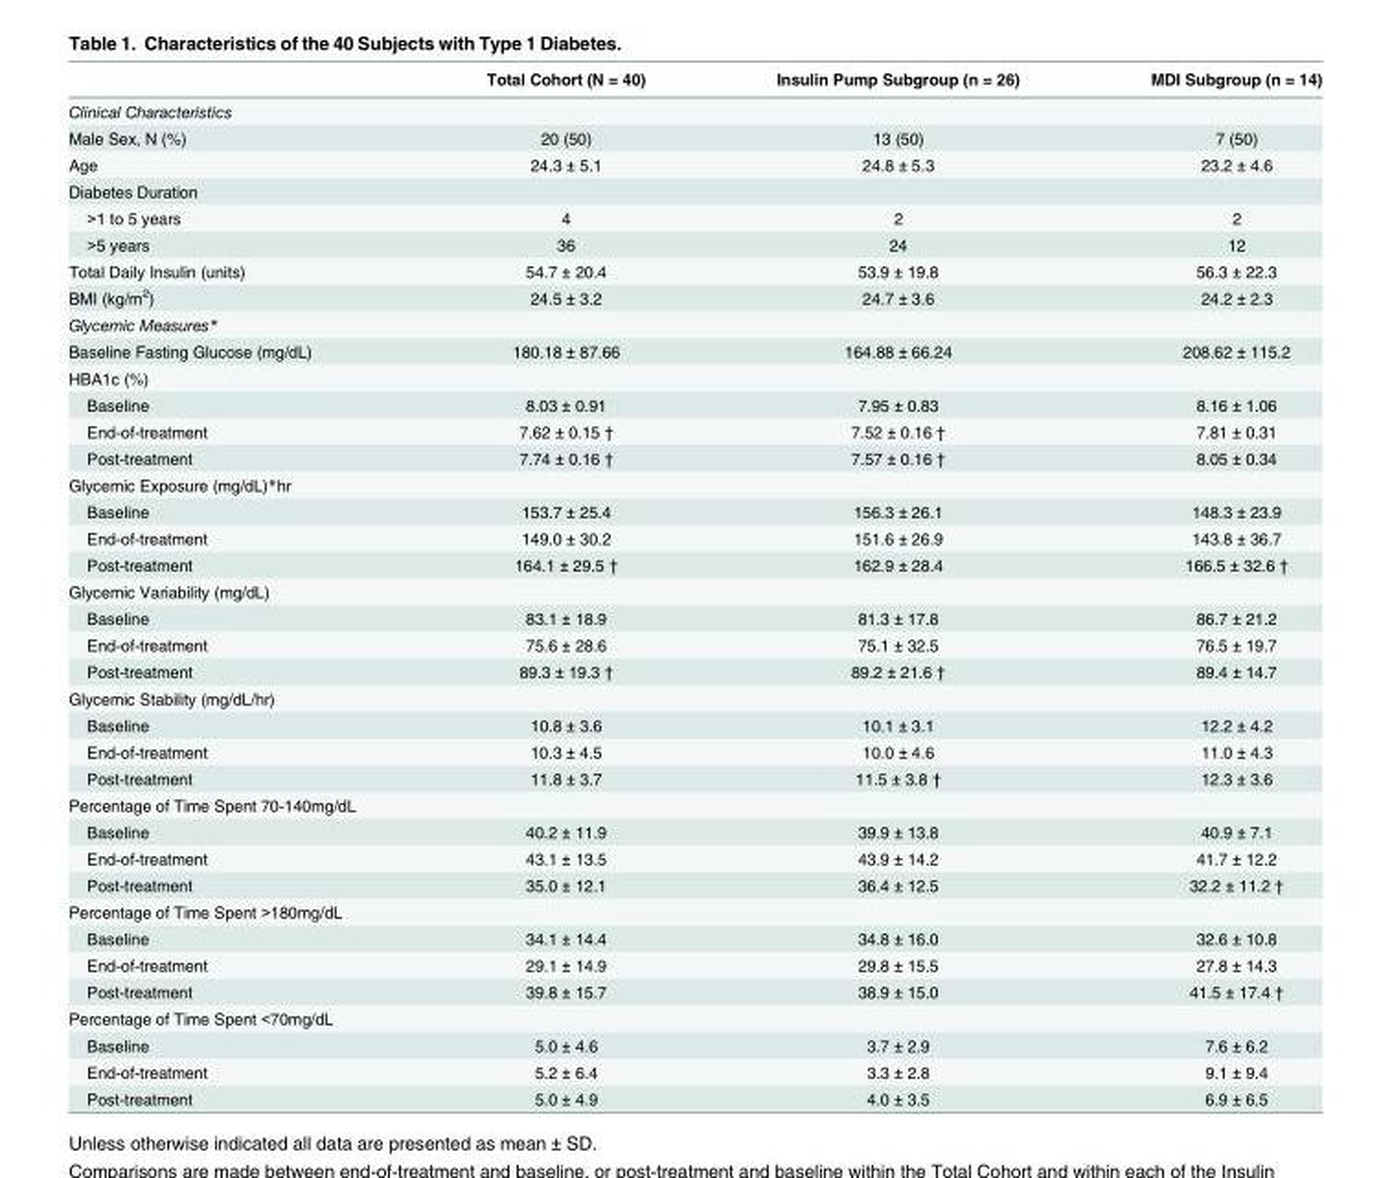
<table><thead><tr><td></td><td>Total Cohort (N = 40)</td><td>Insulin Pump Subgroup (n = 26)</td><td>MDI Subgroup (n = 14)</td></tr></thead><tbody><tr><td colspan="4">Clinical Characteristics</td></tr><tr><td>Male Sex, N (%)</td><td>20 (50)</td><td>13 (50)</td><td>7 (50)</td></tr><tr><td>Age</td><td>24.3 ± 5.1</td><td>24.8 ± 5.3</td><td>23.2 ± 4.6</td></tr><tr><td colspan="4">Diabetes Duration</td></tr><tr><td>&gt;1 to 5 years</td><td>4</td><td>2</td><td>2</td></tr><tr><td>&gt;5 years</td><td>36</td><td>24</td><td>12</td></tr><tr><td>Total Daily Insulin (units)</td><td>54.7 ± 20.4</td><td>53.9 ± 19.8</td><td>56.3 ± 22.3</td></tr><tr><td>BMI (kg/m<sup>2</sup>)</td><td>24.5 ± 3.2</td><td>24.7 ± 3.6</td><td>24.2 ± 2.3</td></tr><tr><td colspan="4">Glycemic Measures*</td></tr><tr><td>Baseline Fasting Glucose (mg/dL)</td><td>180.18 ± 87.66</td><td>164.88 ± 66.24</td><td>208.62 ± 115.2</td></tr><tr><td colspan="4">HBA1c (%)</td></tr><tr><td>Baseline</td><td>8.03 ± 0.91</td><td>7.95 ± 0.83</td><td>8.16 ± 1.06</td></tr><tr><td>End-of-treatment</td><td>7.62 ± 0.15 †</td><td>7.52 ± 0.16 †</td><td>7.81 ± 0.31</td></tr><tr><td>Post-treatment</td><td>7.74 ± 0.16 †</td><td>7.57 ± 0.16 †</td><td>8.05 ± 0.34</td></tr><tr><td colspan="4">Glycemic Exposure (mg/dL)*hr</td></tr><tr><td>Baseline</td><td>153.7 ± 25.4</td><td>156.3 ± 26.1</td><td>148.3 ± 23.9</td></tr><tr><td>End-of-treatment</td><td>149.0 ± 30.2</td><td>151.6 ± 26.9</td><td>143.8 ± 36.7</td></tr><tr><td>Post-treatment</td><td>164.1 ± 29.5 †</td><td>162.9 ± 28.4</td><td>166.5 ± 32.6 †</td></tr><tr><td colspan="4">Glycemic Variability (mg/dL)</td></tr><tr><td>Baseline</td><td>83.1 ± 18.9</td><td>81.3 ± 17.8</td><td>86.7 ± 21.2</td></tr><tr><td>End-of-treatment</td><td>75.6 ± 28.6</td><td>75.1 ± 32.5</td><td>76.5 ± 19.7</td></tr><tr><td>Post-treatment</td><td>89.3 ± 19.3 †</td><td>89.2 ± 21.6 †</td><td>89.4 ± 14.7</td></tr><tr><td colspan="4">Glycemic Stability (mg/dL/hr)</td></tr><tr><td>Baseline</td><td>10.8 ± 3.6</td><td>10.1 ± 3.1</td><td>12.2 ± 4.2</td></tr><tr><td>End-of-treatment</td><td>10.3 ± 4.5</td><td>10.0 ± 4.6</td><td>11.0 ± 4.3</td></tr><tr><td>Post-treatment</td><td>11.8 ± 3.7</td><td>11.5 ± 3.8 †</td><td>12.3 ± 3.6</td></tr><tr><td colspan="4">Percentage of Time Spent 70-140mg/dL</td></tr><tr><td>Baseline</td><td>40.2 ± 11.9</td><td>39.9 ± 13.8</td><td>40.9 ± 7.1</td></tr><tr><td>End-of-treatment</td><td>43.1 ± 13.5</td><td>43.9 ± 14.2</td><td>41.7 ± 12.2</td></tr><tr><td>Post-treatment</td><td>35.0 ± 12.1</td><td>36.4 ± 12.5</td><td>32.2 ± 11.2 †</td></tr><tr><td colspan="4">Percentage of Time Spent &gt;180mg/dL</td></tr><tr><td>Baseline</td><td>34.1 ± 14.4</td><td>34.8 ± 16.0</td><td>32.6 ± 10.8</td></tr><tr><td>End-of-treatment</td><td>29.1 ± 14.9</td><td>29.8 ± 15.5</td><td>27.8 ± 14.3</td></tr><tr><td>Post-treatment</td><td>39.8 ± 15.7</td><td>38.9 ± 15.0</td><td>41.5 ± 17.4 †</td></tr><tr><td colspan="4">Percentage of Time Spent &lt;70mg/dL</td></tr><tr><td>Baseline</td><td>5.0 ± 4.6</td><td>3.7 ± 2.9</td><td>7.6 ± 6.2</td></tr><tr><td>End-of-treatment</td><td>5.2 ± 6.4</td><td>3.3 ± 2.8</td><td>9.1 ± 9.4</td></tr><tr><td>Post-treatment</td><td>5.0 ± 4.9</td><td>4.0 ± 3.5</td><td>6.9 ± 6.5</td></tr></tbody></table>